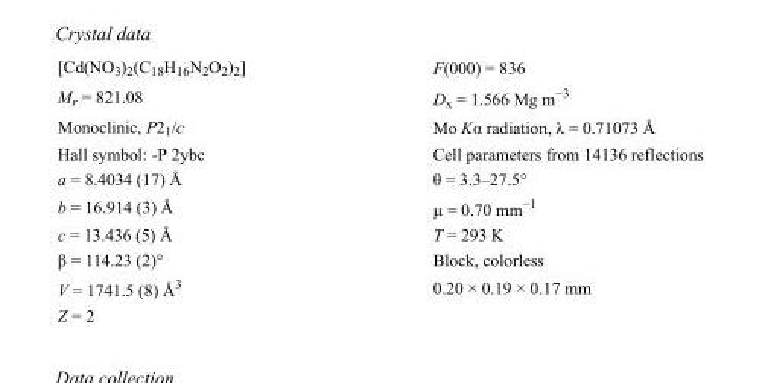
<table><tbody><tr><td>[Cd(NO<sub>3</sub>)<sub>2</sub>(C<sub>18</sub>H<sub>16</sub>N<sub>2</sub>O<sub>2</sub>)<sub>2</sub>]</td><td>F(000) = 836</td></tr><tr><td>M<sub>r</sub> = 821.08</td><td>D<sub>x</sub> = 1.566 Mg m<sup>−3</sup></td></tr><tr><td>Monoclinic, P2<sub>1</sub>/c</td><td>Mo Kα radiation, λ = 0.71073 Å</td></tr><tr><td>Hall symbol: -P 2ybc</td><td>Cell parameters from 14136 reflections</td></tr><tr><td>a = 8.4034 (17) Å</td><td>θ = 3.3–27.5°</td></tr><tr><td>b = 16.914 (3) Å</td><td>µ = 0.70 mm<sup>−1</sup></td></tr><tr><td>c = 13.436 (5) Å</td><td>T = 293 K</td></tr><tr><td>β = 114.23 (2)°</td><td>Block, colorless</td></tr><tr><td>V = 1741.5 (8) Å<sup>3</sup></td><td>0.20 × 0.19 × 0.17 mm</td></tr><tr><td>Z = 2</td><td></td></tr></tbody></table>